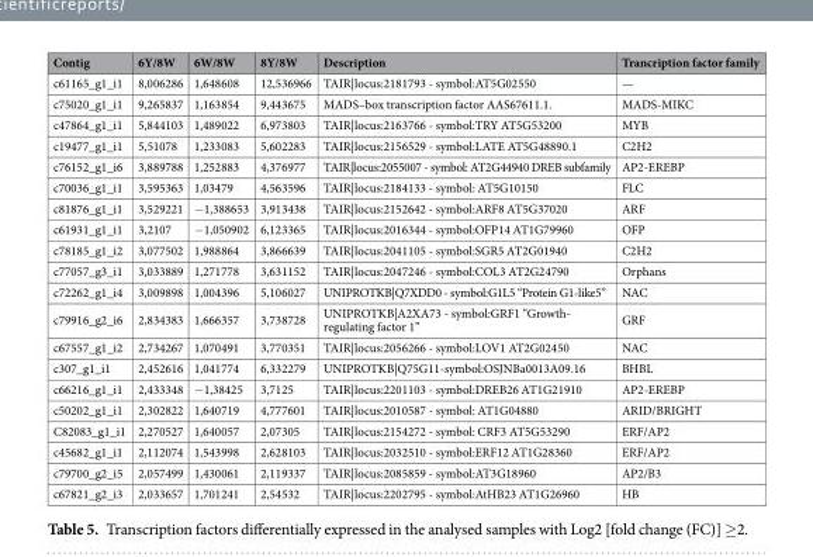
<table><thead><tr><td>Contig</td><td>6Y/8W</td><td>6W/8W</td><td>8Y/8W</td><td>Description</td><td>Trancription factor family</td></tr></thead><tbody><tr><td>c61165_g1_i1</td><td>8,006286</td><td>1,648608</td><td>12,536966</td><td>TAIR|locus:2181793 - symbol:AT5G02550</td><td>—</td></tr><tr><td>c75020_g1_i1</td><td>9,265837</td><td>1,163854</td><td>9,443675</td><td>MADS–box transcription factor AAS67611.1.</td><td>MADS-MIKC</td></tr><tr><td>c47864_g1_i1</td><td>5,844103</td><td>1,489022</td><td>6,973803</td><td>TAIR|locus:2163766 - symbol:TRY AT5G53200</td><td>MYB</td></tr><tr><td>c19477_g1_i1</td><td>5,51078</td><td>1,233083</td><td>5,602283</td><td>TAIR|locus:2156529 - symbol:LATE AT5G48890.1</td><td>C2H2</td></tr><tr><td>c76152_g1_i6</td><td>3,889788</td><td>1,252883</td><td>4,376977</td><td>TAIR|locus:2055007 - symbol: AT2G44940 DREB subfamily</td><td>AP2-EREBP</td></tr><tr><td>c70036_g1_i1</td><td>3,595363</td><td>1,03479</td><td>4,563596</td><td>TAIR|locus:2184133 - symbol: AT5G10150</td><td>FLC</td></tr><tr><td>c81876_g1_i1</td><td>3,529221</td><td>−1,388653</td><td>3,913438</td><td>TAIR|locus:2152642 - symbol:ARF8 AT5G37020</td><td>ARF</td></tr><tr><td>c61931_g1_i1</td><td>3,2107</td><td>−1,050902</td><td>6,123365</td><td>TAIR|locus:2016344 - symbol:OFP14 AT1G79960</td><td>OFP</td></tr><tr><td>c78185_g1_i2</td><td>3,077502</td><td>1,988864</td><td>3,866639</td><td>TAIR|locus:2041105 - symbol:SGR5 AT2G01940</td><td>C2H2</td></tr><tr><td>c77057_g3_i1</td><td>3,033889</td><td>1,271778</td><td>3,631152</td><td>TAIR|locus:2047246 - symbol:COL3 AT2G24790</td><td>Orphans</td></tr><tr><td>c72262_g1_i4</td><td>3,009898</td><td>1,004396</td><td>5,106027</td><td>UNIPROTKB|Q7XDD0 - symbol:G1L5 “Protein G1-like5”</td><td>NAC</td></tr><tr><td>c79916_g2_i6</td><td>2,834383</td><td>1,666357</td><td>3,738728</td><td>UNIPROTKB|A2XA73 - symbol:GRF1 “Growth- regulating factor 1”</td><td>GRF</td></tr><tr><td>c67557_g1_i2</td><td>2,734267</td><td>1,070491</td><td>3,770351</td><td>TAIR|locus:2056266 - symbol:LOV1 AT2G02450</td><td>NAC</td></tr><tr><td>c307_g1_i1</td><td>2,452616</td><td>1,041774</td><td>6,332279</td><td>UNIPROTKB|Q75G11-symbol:OSJNBa0013A09.16</td><td>BHBL</td></tr><tr><td>c66216_g1_i1</td><td>2,433348</td><td>−1,38425</td><td>3,7125</td><td>TAIR|locus:2201103 - symbol:DREB26 AT1G21910</td><td>AP2-EREBP</td></tr><tr><td>c50202_g1_i1</td><td>2,302822</td><td>1,640719</td><td>4,777601</td><td>TAIR|locus:2010587 - symbol: AT1G04880</td><td>ARID/BRIGHT</td></tr><tr><td>C82083_g1_i1</td><td>2,270527</td><td>1,640057</td><td>2,07305</td><td>TAIR|locus:2154272 - symbol: CRF3 AT5G53290</td><td>ERF/AP2</td></tr><tr><td>c45682_g1_i1</td><td>2,112074</td><td>1,543998</td><td>2,628103</td><td>TAIR|locus:2032510 - symbol:ERF12 AT1G28360</td><td>ERF/AP2</td></tr><tr><td>c79700_g2_i5</td><td>2,057499</td><td>1,430061</td><td>2,119337</td><td>TAIR|locus:2085859 - symbol:AT3G18960</td><td>AP2/B3</td></tr><tr><td>c67821_g2_i3</td><td>2,033657</td><td>1,701241</td><td>2,54532</td><td>TAIR|locus:2202795 - symbol:AtHB23 AT1G26960</td><td>HB</td></tr></tbody></table>